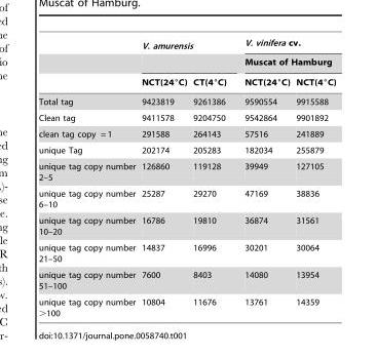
<table><thead><tr><td rowspan="3"></td><td colspan="2">V. amurensis</td><td rowspan="2" colspan="2">V. vinifera cv. Muscat of Hamburg</td></tr><tr><td rowspan="2">NCT(24°C)</td><td rowspan="2">CT(4°C)</td></tr><tr><td>NCT(24°C)</td><td>NCT(4°C)</td></tr></thead><tbody><tr><td>Total tag</td><td>9423819</td><td>9261386</td><td>9590554</td><td>9915588</td></tr><tr><td>Clean tag</td><td>9411578</td><td>9204750</td><td>9542864</td><td>9901892</td></tr><tr><td>clean tag copy = 1</td><td>291588</td><td>264143</td><td>57516</td><td>241889</td></tr><tr><td>unique Tag</td><td>202174</td><td>205283</td><td>182034</td><td>255879</td></tr><tr><td>unique tag copy number 2–5</td><td>126860</td><td>119128</td><td>39949</td><td>127105</td></tr><tr><td>unique tag copy number 6–10</td><td>25287</td><td>29270</td><td>47169</td><td>38836</td></tr><tr><td>unique tag copy number 10–20</td><td>16786</td><td>19810</td><td>36874</td><td>31561</td></tr><tr><td>unique tag copy number 21–50</td><td>14837</td><td>16996</td><td>30201</td><td>30064</td></tr><tr><td>unique tag copy number 51–100</td><td>7600</td><td>8403</td><td>14080</td><td>13954</td></tr><tr><td>unique tag copy number &gt;100</td><td>10804</td><td>11676</td><td>13761</td><td>14359</td></tr></tbody></table>